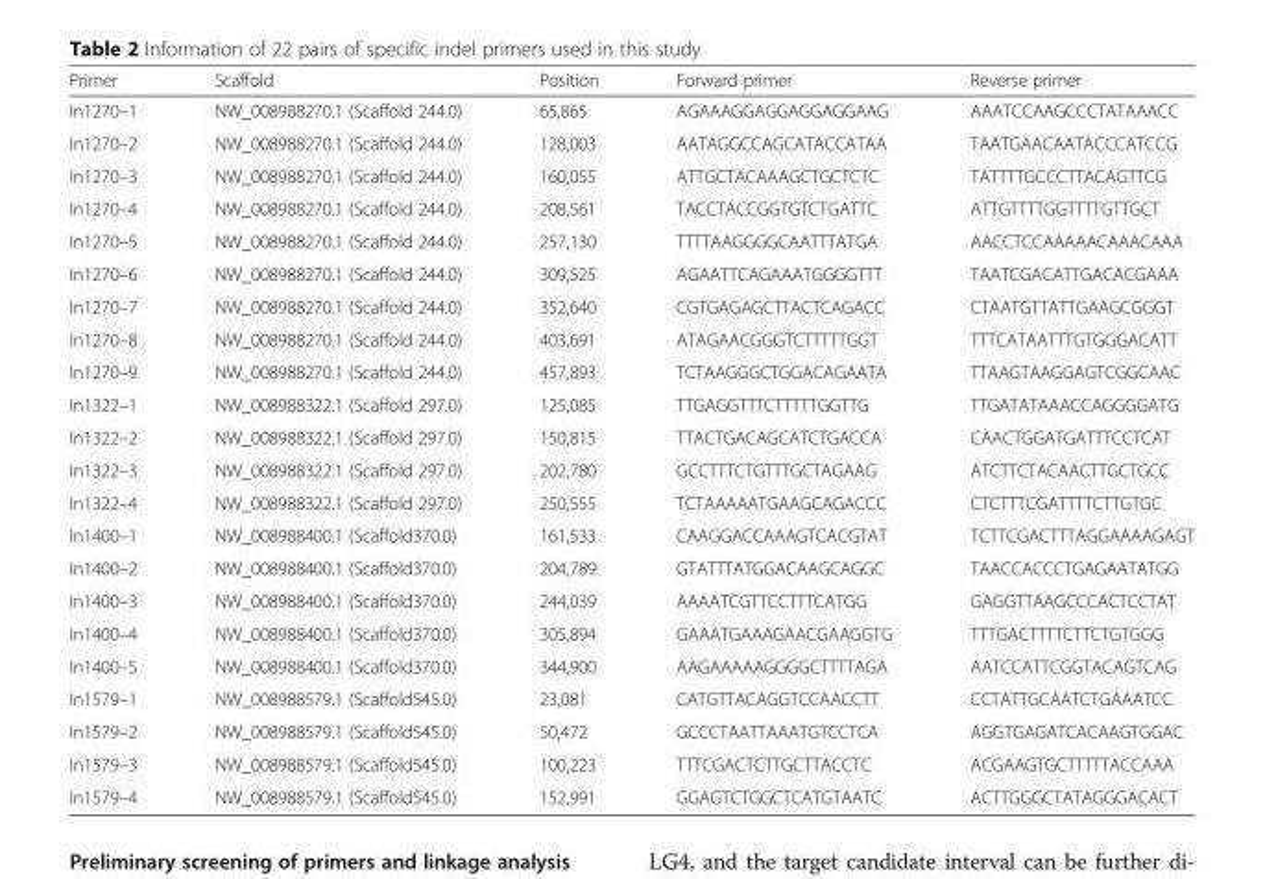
<table><thead><tr><td>Primer</td><td>Scaffold</td><td>Position</td><td>Forward primer</td><td>Reverse primer</td></tr></thead><tbody><tr><td>In1270–1</td><td>NW_008988270.1 (Scaffold 244.0)</td><td>65,865</td><td>AGAAAGGAGGAGGAGGAAG</td><td>AAATCCAAGCCCTATAAACC</td></tr><tr><td>In1270–2</td><td>NW_008988270.1 (Scaffold 244.0)</td><td>128,003</td><td>AATAGGCCAGCATACCATAA</td><td>TAATGAACAATACCCATCCG</td></tr><tr><td>In1270–3</td><td>NW_008988270.1 (Scaffold 244.0)</td><td>160,055</td><td>ATTGCTACAAAGCTGCTCTC</td><td>TATTTTGCCCTTACAGTTCG</td></tr><tr><td>In1270–4</td><td>NW_008988270.1 (Scaffold 244.0)</td><td>208,561</td><td>TACCTACCGGTGTCTGATTC</td><td>ATTGTTTTGGTTTTGTTGCT</td></tr><tr><td>In1270–5</td><td>NW_008988270.1 (Scaffold 244.0)</td><td>257,130</td><td>TTTTAAGGGGCAATTTATGA</td><td>AACCTCCAAAAACAAACAAA</td></tr><tr><td>In1270–6</td><td>NW_008988270.1 (Scaffold 244.0)</td><td>309,525</td><td>AGAATTCAGAAATGGGGTTT</td><td>TAATCGACATTGACACGAAA</td></tr><tr><td>In1270–7</td><td>NW_008988270.1 (Scaffold 244.0)</td><td>352,640</td><td>CGTGAGAGCTTACTCAGACC</td><td>CTAATGTTATTGAAGCGGGT</td></tr><tr><td>In1270–8</td><td>NW_008988270.1 (Scaffold 244.0)</td><td>403,691</td><td>ATAGAACGGGTCTTTTTGGT</td><td>TTTCATAATTTGTGGGACATT</td></tr><tr><td>In1270–9</td><td>NW_008988270.1 (Scaffold 244.0)</td><td>457,893</td><td>TCTAAGGGCTGGACAGAATA</td><td>TTAAGTAAGGAGTCGGCAAC</td></tr><tr><td>In1322–1</td><td>NW_008988322.1 (Scaffold 297.0)</td><td>125,085</td><td>TTGAGGTTTCTTTTTGGTTG</td><td>TTGATATAAACCAGGGGATG</td></tr><tr><td>In1322–2</td><td>NW_008988322.1 (Scaffold 297.0)</td><td>150,815</td><td>TTACTGACAGCATCTGACCA</td><td>CAACTGGATGATTTCCTCAT</td></tr><tr><td>In1322–3</td><td>NW_008988322.1 (Scaffold 297.0)</td><td>202,780</td><td>GCCTTTCTGTTTGCTAGAAG</td><td>ATCTTCTACAACTTGCTGCC</td></tr><tr><td>In1322–4</td><td>NW_008988322.1 (Scaffold 297.0)</td><td>250,555</td><td>TCTAAAAATGAAGCAGACCC</td><td>CTCTTTCGATTTTCTTGTGC</td></tr><tr><td>In1400–1</td><td>NW_008988400.1 (Scaffold370.0)</td><td>161,533</td><td>CAAGGACCAAAGTCACGTAT</td><td>TCTTCGACTTTAGGAAAAGAGT</td></tr><tr><td>In1400–2</td><td>NW_008988400.1 (Scaffold370.0)</td><td>204,789</td><td>GTATTTATGGACAAGCAGGC</td><td>TAACCACCCTGAGAATATGG</td></tr><tr><td>In1400–3</td><td>NW_008988400.1 (Scaffold370.0)</td><td>244,039</td><td>AAAATCGTTCCTTTCATGG</td><td>GAGGTTAAGCCCACTCCTAT</td></tr><tr><td>In1400–4</td><td>NW_008988400.1 (Scaffold370.0)</td><td>305,894</td><td>GAAATGAAAGAACGAAGGTG</td><td>TTTGACTTTTCTTCTGTGGG</td></tr><tr><td>In1400–5</td><td>NW_008988400.1 (Scaffold370.0)</td><td>344,900</td><td>AAGAAAAAGGGGCTTTTAGA</td><td>AATCCATTCGGTACAGTCAG</td></tr><tr><td>In1579–1</td><td>NW_008988579.1 (Scaffold545.0)</td><td>23,081</td><td>CATGTTACAGGTCCAACCTT</td><td>CCTATTGCAATCTGAAATCC</td></tr><tr><td>In1579–2</td><td>NW_008988579.1 (Scaffold545.0)</td><td>50,472</td><td>GCCCTAATTAAATGTCCTCA</td><td>AGGTGAGATCACAAGTGGAC</td></tr><tr><td>In1579–3</td><td>NW_008988579.1 (Scaffold545.0)</td><td>100,223</td><td>TTTCGACTCTTGCTTACCTC</td><td>ACGAAGTGCTTTTTACCAAA</td></tr><tr><td>In1579–4</td><td>NW_008988579.1 (Scaffold545.0)</td><td>152,991</td><td>GGAGTCTGGCTCATGTAATC</td><td>ACTTGGGCTATAGGGACACT</td></tr></tbody></table>